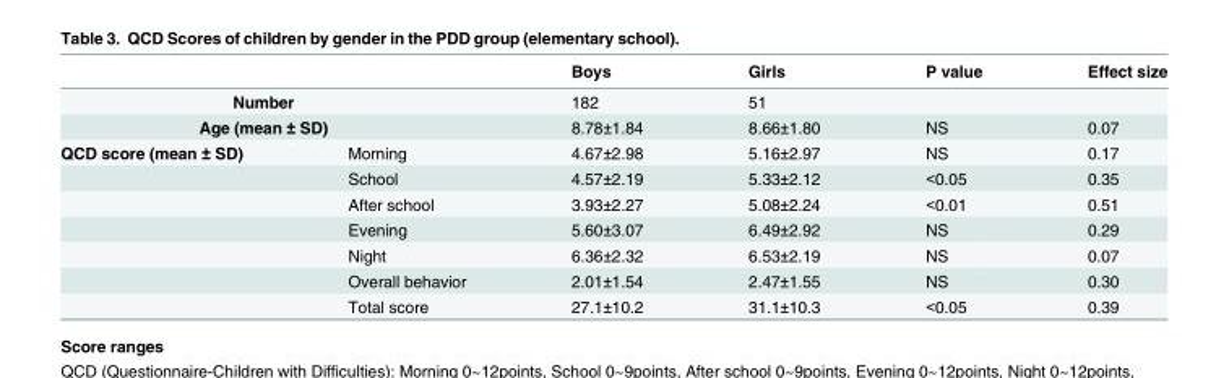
<table><thead><tr><td></td><td></td><td>Boys</td><td>Girls</td><td>P value</td><td>Effect size</td></tr></thead><tbody><tr><td colspan="2">Number</td><td>182</td><td>51</td><td></td><td></td></tr><tr><td colspan="2">Age (mean ± SD)</td><td>8.78±1.84</td><td>8.66±1.80</td><td>NS</td><td>0.07</td></tr><tr><td rowspan="7">QCD score (mean ± SD)</td><td>Morning</td><td>4.67±2.98</td><td>5.16±2.97</td><td>NS</td><td>0.17</td></tr><tr><td>School</td><td>4.57±2.19</td><td>5.33±2.12</td><td>&lt;0.05</td><td>0.35</td></tr><tr><td>After school</td><td>3.93±2.27</td><td>5.08±2.24</td><td>&lt;0.01</td><td>0.51</td></tr><tr><td>Evening</td><td>5.60±3.07</td><td>6.49±2.92</td><td>NS</td><td>0.29</td></tr><tr><td>Night</td><td>6.36±2.32</td><td>6.53±2.19</td><td>NS</td><td>0.07</td></tr><tr><td>Overall behavior</td><td>2.01±1.54</td><td>2.47±1.55</td><td>NS</td><td>0.30</td></tr><tr><td>Total score</td><td>27.1±10.2</td><td>31.1±10.3</td><td>&lt;0.05</td><td>0.39</td></tr></tbody></table>